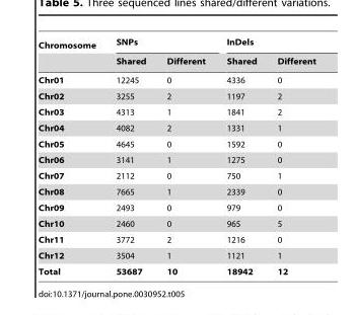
<table><thead><tr><td rowspan="2">Chromosome</td><td colspan="2">SNPs</td><td colspan="2">InDels</td></tr><tr><td>Shared</td><td>Different</td><td>Shared</td><td>Different</td></tr></thead><tbody><tr><td>Chr01</td><td>12245</td><td>0</td><td>4336</td><td>0</td></tr><tr><td>Chr02</td><td>3255</td><td>2</td><td>1197</td><td>2</td></tr><tr><td>Chr03</td><td>4313</td><td>1</td><td>1841</td><td>2</td></tr><tr><td>Chr04</td><td>4082</td><td>2</td><td>1331</td><td>1</td></tr><tr><td>Chr05</td><td>4645</td><td>0</td><td>1592</td><td>0</td></tr><tr><td>Chr06</td><td>3141</td><td>1</td><td>1275</td><td>0</td></tr><tr><td>Chr07</td><td>2112</td><td>0</td><td>750</td><td>1</td></tr><tr><td>Chr08</td><td>7665</td><td>1</td><td>2339</td><td>0</td></tr><tr><td>Chr09</td><td>2493</td><td>0</td><td>979</td><td>0</td></tr><tr><td>Chr10</td><td>2460</td><td>0</td><td>965</td><td>5</td></tr><tr><td>Chr11</td><td>3772</td><td>2</td><td>1216</td><td>0</td></tr><tr><td>Chr12</td><td>3504</td><td>1</td><td>1121</td><td>1</td></tr><tr><td>Total</td><td>53687</td><td>10</td><td>18942</td><td>12</td></tr></tbody></table>